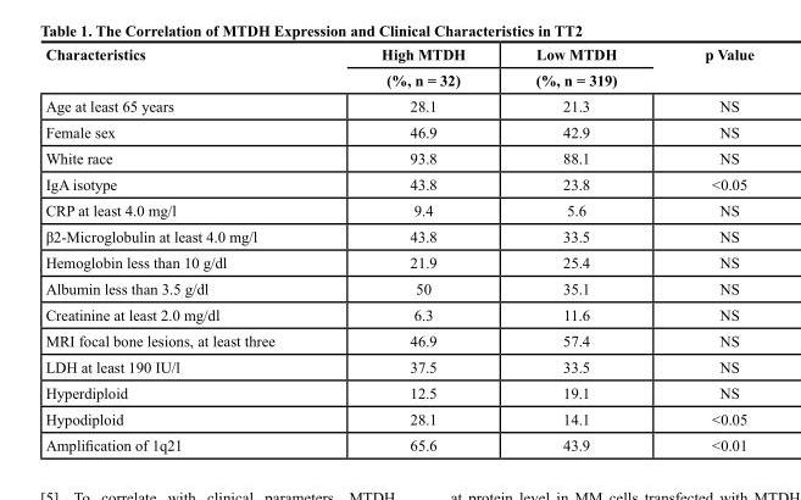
<table><thead><tr><td rowspan="2">Characteristics</td><td rowspan="2">High MTDH (%, n = 32)</td><td rowspan="2">Low MTDH (%, n = 319)</td><td rowspan="2">p Value</td></tr><tr></tr></thead><tbody><tr><td>Age at least 65 years</td><td>28.1</td><td>21.3</td><td>NS</td></tr><tr><td>Female sex</td><td>46.9</td><td>42.9</td><td>NS</td></tr><tr><td>White race</td><td>93.8</td><td>88.1</td><td>NS</td></tr><tr><td>IgA isotype</td><td>43.8</td><td>23.8</td><td>&lt;0.05</td></tr><tr><td>CRP at least 4.0 mg/l</td><td>9.4</td><td>5.6</td><td>NS</td></tr><tr><td>β2-Microglobulin at least 4.0 mg/l</td><td>43.8</td><td>33.5</td><td>NS</td></tr><tr><td>Hemoglobin less than 10 g/dl</td><td>21.9</td><td>25.4</td><td>NS</td></tr><tr><td>Albumin less than 3.5 g/dl</td><td>50</td><td>35.1</td><td>NS</td></tr><tr><td>Creatinine at least 2.0 mg/dl</td><td>6.3</td><td>11.6</td><td>NS</td></tr><tr><td>MRI focal bone lesions, at least three</td><td>46.9</td><td>57.4</td><td>NS</td></tr><tr><td>LDH at least 190 IU/l</td><td>37.5</td><td>33.5</td><td>NS</td></tr><tr><td>Hyperdiploid</td><td>12.5</td><td>19.1</td><td>NS</td></tr><tr><td>Hypodiploid</td><td>28.1</td><td>14.1</td><td>&lt;0.05</td></tr><tr><td>Amplification of 1q21</td><td>65.6</td><td>43.9</td><td>&lt;0.01</td></tr></tbody></table>